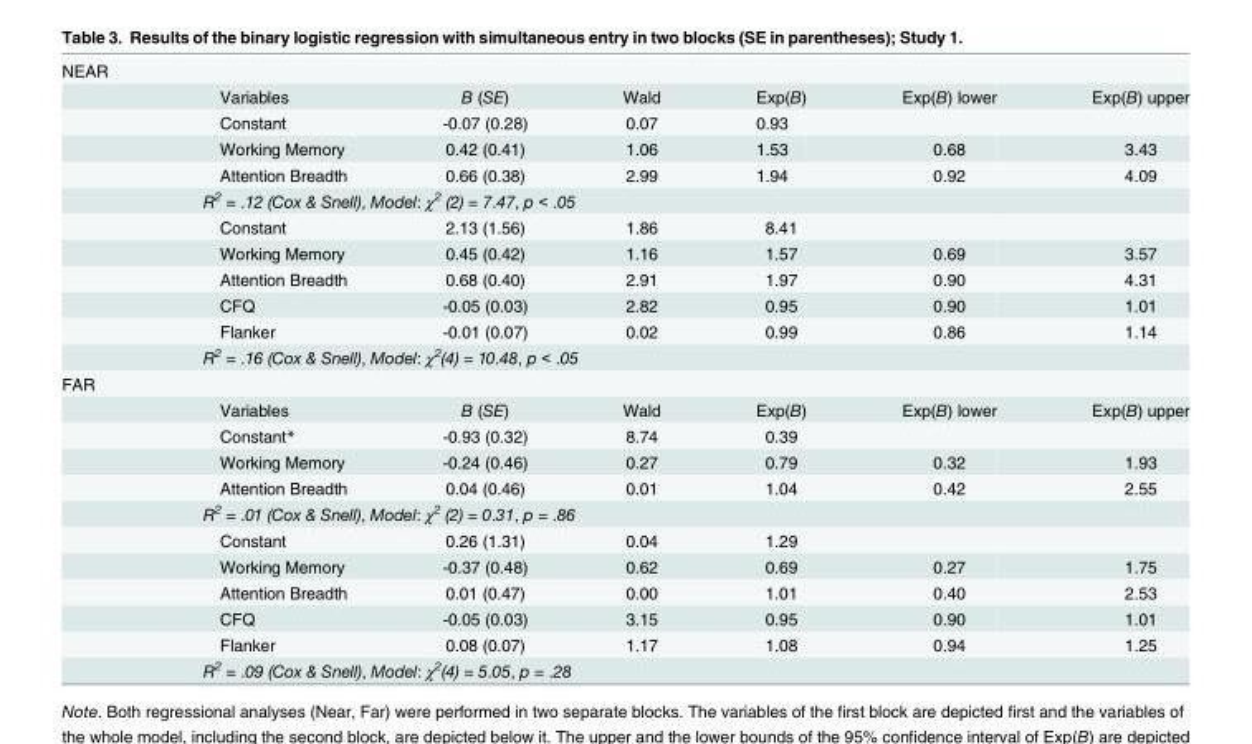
<table><tbody><tr><td colspan="7">NEAR</td></tr><tr><td></td><td>Variables</td><td>B (SE)</td><td>Wald</td><td>Exp(B)</td><td>Exp(B) lower</td><td>Exp(B) upper</td></tr><tr><td></td><td>Constant</td><td>-0.07 (0.28)</td><td>0.07</td><td>0.93</td><td></td><td></td></tr><tr><td></td><td>Working Memory</td><td>0.42 (0.41)</td><td>1.06</td><td>1.53</td><td>0.68</td><td>3.43</td></tr><tr><td></td><td>Attention Breadth</td><td>0.66 (0.38)</td><td>2.99</td><td>1.94</td><td>0.92</td><td>4.09</td></tr><tr><td></td><td colspan="6">R<sup>2</sup> = .12 (Cox &amp; Snell), Model: χ<sup>2</sup> (2) = 7.47, p &lt; .05</td></tr><tr><td></td><td>Constant</td><td>2.13 (1.56)</td><td>1.86</td><td>8.41</td><td></td><td></td></tr><tr><td></td><td>Working Memory</td><td>0.45 (0.42)</td><td>1.16</td><td>1.57</td><td>0.69</td><td>3.57</td></tr><tr><td></td><td>Attention Breadth</td><td>0.68 (0.40)</td><td>2.91</td><td>1.97</td><td>0.90</td><td>4.31</td></tr><tr><td></td><td>CFQ</td><td>-0.05 (0.03)</td><td>2.82</td><td>0.95</td><td>0.90</td><td>1.01</td></tr><tr><td></td><td>Flanker</td><td>-0.01 (0.07)</td><td>0.02</td><td>0.99</td><td>0.86</td><td>1.14</td></tr><tr><td></td><td colspan="6">R<sup>2</sup> = .16 (Cox &amp; Snell), Model: χ<sup>2</sup>(4) = 10.48, p &lt; .05</td></tr><tr><td colspan="7">FAR</td></tr><tr><td></td><td>Variables</td><td>B (SE)</td><td>Wald</td><td>Exp(B)</td><td>Exp(B) lower</td><td>Exp(B) upper</td></tr><tr><td></td><td>Constant*</td><td>-0.93 (0.32)</td><td>8.74</td><td>0.39</td><td></td><td></td></tr><tr><td></td><td>Working Memory</td><td>-0.24 (0.46)</td><td>0.27</td><td>0.79</td><td>0.32</td><td>1.93</td></tr><tr><td></td><td>Attention Breadth</td><td>0.04 (0.46)</td><td>0.01</td><td>1.04</td><td>0.42</td><td>2.55</td></tr><tr><td></td><td colspan="6">R<sup>2</sup> = .01 (Cox &amp; Snell), Model: χ<sup>2</sup> (2) = 0.31, p = .86</td></tr><tr><td></td><td>Constant</td><td>0.26 (1.31)</td><td>0.04</td><td>1.29</td><td></td><td></td></tr><tr><td></td><td>Working Memory</td><td>-0.37 (0.48)</td><td>0.62</td><td>0.69</td><td>0.27</td><td>1.75</td></tr><tr><td></td><td>Attention Breadth</td><td>0.01 (0.47)</td><td>0.00</td><td>1.01</td><td>0.40</td><td>2.53</td></tr><tr><td></td><td>CFQ</td><td>-0.05 (0.03)</td><td>3.15</td><td>0.95</td><td>0.90</td><td>1.01</td></tr><tr><td></td><td>Flanker</td><td>0.08 (0.07)</td><td>1.17</td><td>1.08</td><td>0.94</td><td>1.25</td></tr><tr><td></td><td colspan="6">R<sup>2</sup> = .09 (Cox &amp; Snell), Model: χ<sup>2</sup>(4) = 5.05, p = .28</td></tr></tbody></table>